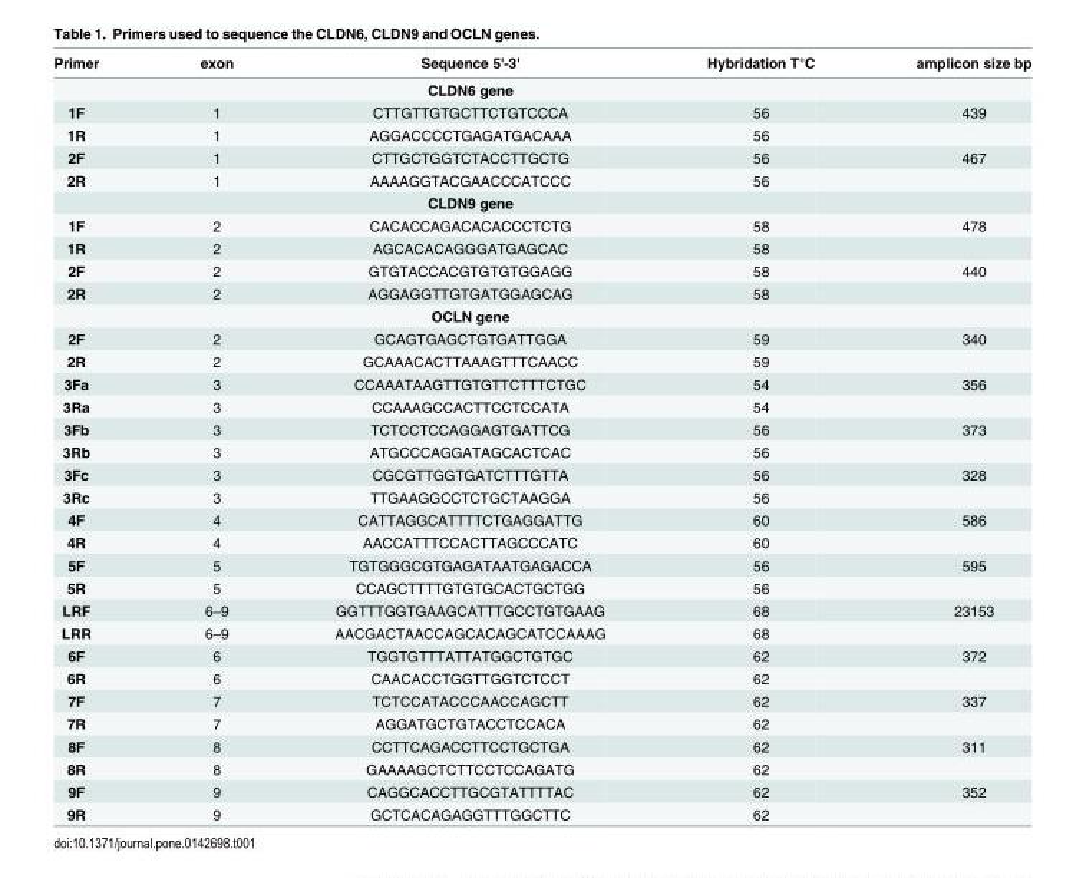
<table><thead><tr><td>Primer</td><td>exon</td><td>Sequence 5&#x27;-3&#x27;</td><td>Hybridation T°C</td><td>amplicon size bp</td></tr></thead><tbody><tr><td></td><td></td><td>CLDN6 gene</td><td></td><td></td></tr><tr><td>1F</td><td>1</td><td>CTTGTTGTGCTTCTGTCCCA</td><td>56</td><td>439</td></tr><tr><td>1R</td><td>1</td><td>AGGACCCCTGAGATGACAAA</td><td>56</td><td></td></tr><tr><td>2F</td><td>1</td><td>CTTGCTGGTCTACCTTGCTG</td><td>56</td><td>467</td></tr><tr><td rowspan="2">2R</td><td>1</td><td>AAAAGGTACGAACCCATCCC</td><td>56</td><td></td></tr><tr><td></td><td>CLDN9 gene</td><td></td><td></td></tr><tr><td>1F</td><td>2</td><td>CACACCAGACACACCCTCTG</td><td>58</td><td>478</td></tr><tr><td>1R</td><td>2</td><td>AGCACACAGGGATGAGCAC</td><td>58</td><td></td></tr><tr><td>2F</td><td>2</td><td>GTGTACCACGTGTGTGGAGG</td><td>58</td><td>440</td></tr><tr><td rowspan="2">2R</td><td>2</td><td>AGGAGGTTGTGATGGAGCAG</td><td>58</td><td></td></tr><tr><td></td><td>OCLN gene</td><td></td><td></td></tr><tr><td>2F</td><td>2</td><td>GCAGTGAGCTGTGATTGGA</td><td>59</td><td>340</td></tr><tr><td>2R</td><td>2</td><td>GCAAACACTTAAAGTTTCAACC</td><td>59</td><td></td></tr><tr><td>3Fa</td><td>3</td><td>CCAAATAAGTTGTGTTCTTTCTGC</td><td>54</td><td>356</td></tr><tr><td>3Ra</td><td>3</td><td>CCAAAGCCACTTCCTCCATA</td><td>54</td><td></td></tr><tr><td>3Fb</td><td>3</td><td>TCTCCTCCAGGAGTGATTCG</td><td>56</td><td>373</td></tr><tr><td>3Rb</td><td>3</td><td>ATGCCCAGGATAGCACTCAC</td><td>56</td><td></td></tr><tr><td>3Fc</td><td>3</td><td>CGCGTTGGTGATCTTTGTTA</td><td>56</td><td>328</td></tr><tr><td>3Rc</td><td>3</td><td>TTGAAGGCCTCTGCTAAGGA</td><td>56</td><td></td></tr><tr><td>4F</td><td>4</td><td>CATTAGGCATTTTCTGAGGATTG</td><td>60</td><td>586</td></tr><tr><td>4R</td><td>4</td><td>AACCATTTCCACTTAGCCCATC</td><td>60</td><td></td></tr><tr><td>5F</td><td>5</td><td>TGTGGGCGTGAGATAATGAGACCA</td><td>56</td><td>595</td></tr><tr><td>5R</td><td>5</td><td>CCAGCTTTTGTGTGCACTGCTGG</td><td>56</td><td></td></tr><tr><td>LRF</td><td>6–9</td><td>GGTTTGGTGAAGCATTTGCCTGTGAAG</td><td>68</td><td>23153</td></tr><tr><td>LRR</td><td>6–9</td><td>AACGACTAACCAGCACAGCATCCAAAG</td><td>68</td><td></td></tr><tr><td>6F</td><td>6</td><td>TGGTGTTTATTATGGCTGTGC</td><td>62</td><td>372</td></tr><tr><td>6R</td><td>6</td><td>CAACACCTGGTTGGTCTCCT</td><td>62</td><td></td></tr><tr><td>7F</td><td>7</td><td>TCTCCATACCCAACCAGCTT</td><td>62</td><td>337</td></tr><tr><td>7R</td><td>7</td><td>AGGATGCTGTACCTCCACA</td><td>62</td><td></td></tr><tr><td>8F</td><td>8</td><td>CCTTCAGACCTTCCTGCTGA</td><td>62</td><td>311</td></tr><tr><td>8R</td><td>8</td><td>GAAAAGCTCTTCCTCCAGATG</td><td>62</td><td></td></tr><tr><td>9F</td><td>9</td><td>CAGGCACCTTGCGTATTTTAC</td><td>62</td><td>352</td></tr><tr><td>9R</td><td>9</td><td>GCTCACAGAGGTTTGGCTTC</td><td>62</td><td></td></tr></tbody></table>